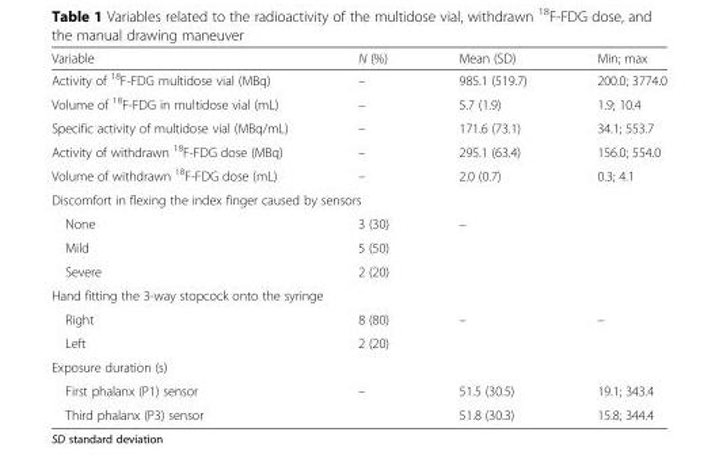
<table><thead><tr><td>Variable</td><td>N (%)</td><td>Mean (SD)</td><td>Min; max</td></tr></thead><tbody><tr><td>Activity of <sup>18</sup>F-FDG multidose vial (MBq)</td><td>–</td><td>985.1 (519.7)</td><td>200.0; 3774.0</td></tr><tr><td>Volume of <sup>18</sup>F-FDG in multidose vial (mL)</td><td>–</td><td>5.7 (1.9)</td><td>1.9; 10.4</td></tr><tr><td>Specific activity of multidose vial (MBq/mL)</td><td>–</td><td>171.6 (73.1)</td><td>34.1; 553.7</td></tr><tr><td>Activity of withdrawn <sup>18</sup>F-FDG dose (MBq)</td><td>–</td><td>295.1 (63.4)</td><td>156.0; 554.0</td></tr><tr><td>Volume of withdrawn <sup>18</sup>F-FDG dose (mL)</td><td>–</td><td>2.0 (0.7)</td><td>0.3; 4.1</td></tr><tr><td colspan="4">Discomfort in flexing the index finger caused by sensors</td></tr><tr><td>None</td><td>3 (30)</td><td rowspan="3">–</td><td rowspan="3"></td></tr><tr><td>Mild</td><td>5 (50)</td></tr><tr><td>Severe</td><td>2 (20)</td></tr><tr><td colspan="4">Hand fitting the 3-way stopcock onto the syringe</td></tr><tr><td>Right</td><td>8 (80)</td><td rowspan="2">–</td><td rowspan="2">–</td></tr><tr><td>Left</td><td>2 (20)</td></tr><tr><td colspan="4">Exposure duration (s)</td></tr><tr><td>First phalanx (P1) sensor</td><td>–</td><td>51.5 (30.5)</td><td>19.1; 343.4</td></tr><tr><td>Third phalanx (P3) sensor</td><td></td><td>51.8 (30.3)</td><td>15.8; 344.4</td></tr></tbody></table>